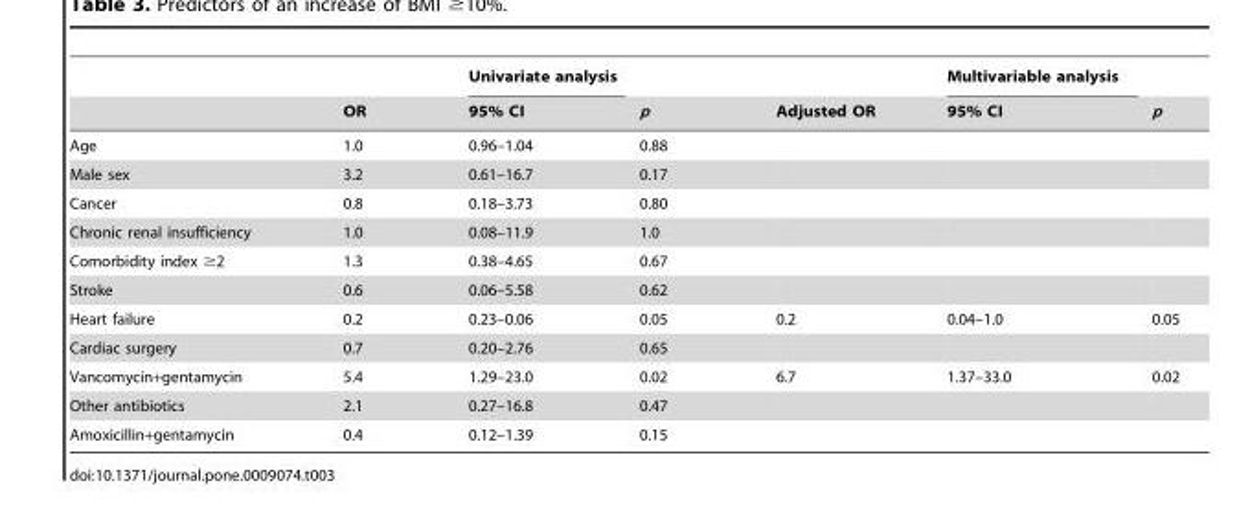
<table><thead><tr><td rowspan="2"></td><td rowspan="2">OR</td><td rowspan="2">Univariate analysis 95% CI</td><td rowspan="2">p</td><td rowspan="2">Adjusted OR</td><td rowspan="2">Multivariable analysis 95% CI</td><td rowspan="2">p</td></tr><tr></tr></thead><tbody><tr><td>Age</td><td>1.0</td><td>0.96–1.04</td><td>0.88</td><td></td><td></td><td></td></tr><tr><td>Male sex</td><td>3.2</td><td>0.61–16.7</td><td>0.17</td><td></td><td></td><td></td></tr><tr><td>Cancer</td><td>0.8</td><td>0.18–3.73</td><td>0.80</td><td></td><td></td><td></td></tr><tr><td>Chronic renal insufficiency</td><td>1.0</td><td>0.08–11.9</td><td>1.0</td><td></td><td></td><td></td></tr><tr><td>Comorbidity index ≥2</td><td>1.3</td><td>0.38–4.65</td><td>0.67</td><td></td><td></td><td></td></tr><tr><td>Stroke</td><td>0.6</td><td>0.06–5.58</td><td>0.62</td><td></td><td></td><td></td></tr><tr><td>Heart failure</td><td>0.2</td><td>0.23–0.06</td><td>0.05</td><td>0.2</td><td>0.04–1.0</td><td>0.05</td></tr><tr><td>Cardiac surgery</td><td>0.7</td><td>0.20–2.76</td><td>0.65</td><td></td><td></td><td></td></tr><tr><td>Vancomycin+gentamycin</td><td>5.4</td><td>1.29–23.0</td><td>0.02</td><td>6.7</td><td>1.37–33.0</td><td>0.02</td></tr><tr><td>Other antibiotics</td><td>2.1</td><td>0.27–16.8</td><td>0.47</td><td></td><td></td><td></td></tr><tr><td>Amoxicillin+gentamycin</td><td>0.4</td><td>0.12–1.39</td><td>0.15</td><td></td><td></td><td></td></tr></tbody></table>